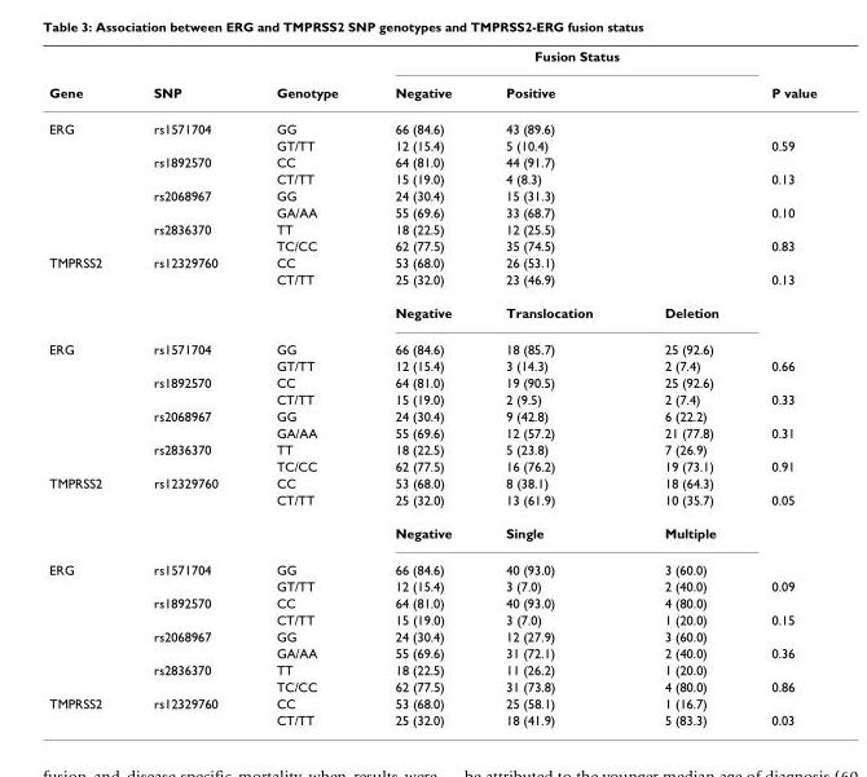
<table><thead><tr><td rowspan="2">Gene</td><td rowspan="2">SNP</td><td rowspan="2">Genotype</td><td colspan="3">Fusion Status</td><td rowspan="2">P value</td></tr><tr><td>Negative</td><td>Positive</td><td></td></tr></thead><tbody><tr><td rowspan="8">ERG</td><td>rs1571704</td><td>GG</td><td>66 (84.6)</td><td>43 (89.6)</td><td></td><td></td></tr><tr><td></td><td>GT/TT</td><td>12 (15.4)</td><td>5 (10.4)</td><td></td><td>0.59</td></tr><tr><td>rs1892570</td><td>CC</td><td>64 (81.0)</td><td>44 (91.7)</td><td></td><td></td></tr><tr><td></td><td>CT/TT</td><td>15 (19.0)</td><td>4 (8.3)</td><td></td><td>0.13</td></tr><tr><td>rs2068967</td><td>GG</td><td>24 (30.4)</td><td>15 (31.3)</td><td></td><td></td></tr><tr><td></td><td>GA/AA</td><td>55 (69.6)</td><td>33 (68.7)</td><td></td><td>0.10</td></tr><tr><td>rs2836370</td><td>TT</td><td>18 (22.5)</td><td>12 (25.5)</td><td></td><td></td></tr><tr><td></td><td>TC/CC</td><td>62 (77.5)</td><td>35 (74.5)</td><td></td><td>0.83</td></tr><tr><td rowspan="3">TMPRSS2</td><td>rs12329760</td><td>CC</td><td>53 (68.0)</td><td>26 (53.1)</td><td></td><td></td></tr><tr><td></td><td>CT/TT</td><td>25 (32.0)</td><td>23 (46.9)</td><td></td><td>0.13</td></tr><tr><td></td><td></td><td>Negative</td><td>Translocation</td><td>Deletion</td><td></td></tr><tr><td rowspan="8">ERG</td><td>rs1571704</td><td>GG</td><td>66 (84.6)</td><td>18 (85.7)</td><td>25 (92.6)</td><td></td></tr><tr><td></td><td>GT/TT</td><td>12 (15.4)</td><td>3 (14.3)</td><td>2 (7.4)</td><td>0.66</td></tr><tr><td>rs1892570</td><td>CC</td><td>64 (81.0)</td><td>19 (90.5)</td><td>25 (92.6)</td><td></td></tr><tr><td></td><td>CT/TT</td><td>15 (19.0)</td><td>2 (9.5)</td><td>2 (7.4)</td><td>0.33</td></tr><tr><td>rs2068967</td><td>GG</td><td>24 (30.4)</td><td>9 (42.8)</td><td>6 (22.2)</td><td></td></tr><tr><td></td><td>GA/AA</td><td>55 (69.6)</td><td>12 (57.2)</td><td>21 (77.8)</td><td>0.31</td></tr><tr><td>rs2836370</td><td>TT</td><td>18 (22.5)</td><td>5 (23.8)</td><td>7 (26.9)</td><td></td></tr><tr><td></td><td>TC/CC</td><td>62 (77.5)</td><td>16 (76.2)</td><td>19 (73.1)</td><td>0.91</td></tr><tr><td rowspan="3">TMPRSS2</td><td>rs12329760</td><td>CC</td><td>53 (68.0)</td><td>8 (38.1)</td><td>18 (64.3)</td><td></td></tr><tr><td></td><td>CT/TT</td><td>25 (32.0)</td><td>13 (61.9)</td><td>10 (35.7)</td><td>0.05</td></tr><tr><td></td><td></td><td>Negative</td><td>Single</td><td>Multiple</td><td></td></tr><tr><td rowspan="8">ERG</td><td>rs1571704</td><td>GG</td><td>66 (84.6)</td><td>40 (93.0)</td><td>3 (60.0)</td><td></td></tr><tr><td></td><td>GT/TT</td><td>12 (15.4)</td><td>3 (7.0)</td><td>2 (40.0)</td><td>0.09</td></tr><tr><td>rs1892570</td><td>CC</td><td>64 (81.0)</td><td>40 (93.0)</td><td>4 (80.0)</td><td></td></tr><tr><td></td><td>CT/TT</td><td>15 (19.0)</td><td>3 (7.0)</td><td>1 (20.0)</td><td>0.15</td></tr><tr><td>rs2068967</td><td>GG</td><td>24 (30.4)</td><td>12 (27.9)</td><td>3 (60.0)</td><td></td></tr><tr><td></td><td>GA/AA</td><td>55 (69.6)</td><td>31 (72.1)</td><td>2 (40.0)</td><td>0.36</td></tr><tr><td>rs2836370</td><td>TT</td><td>18 (22.5)</td><td>11 (26.2)</td><td>1 (20.0)</td><td></td></tr><tr><td></td><td>TC/CC</td><td>62 (77.5)</td><td>31 (73.8)</td><td>4 (80.0)</td><td>0.86</td></tr><tr><td rowspan="2">TMPRSS2</td><td>rs12329760</td><td>CC</td><td>53 (68.0)</td><td>25 (58.1)</td><td>1 (16.7)</td><td></td></tr><tr><td></td><td>CT/TT</td><td>25 (32.0)</td><td>18 (41.9)</td><td>5 (83.3)</td><td>0.03</td></tr></tbody></table>